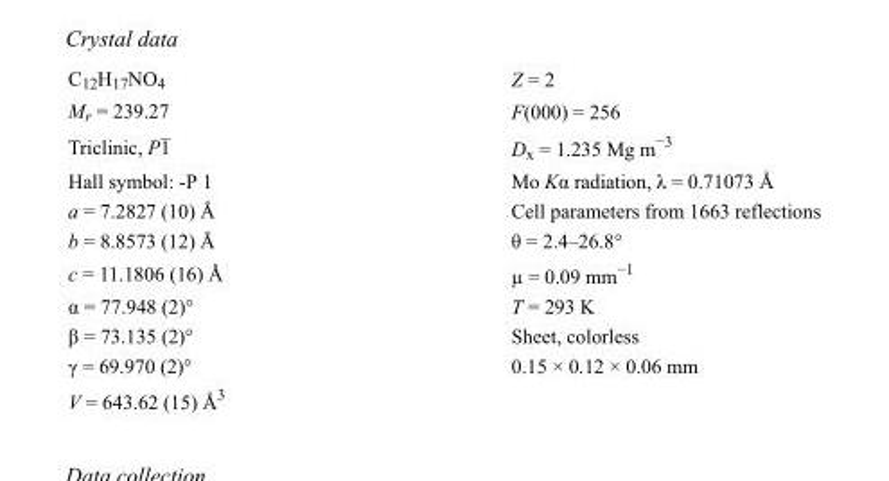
<table><tbody><tr><td>C<sub>12</sub>H<sub>17</sub>NO<sub>4</sub></td><td>Z = 2</td></tr><tr><td>M<sub>r</sub> = 239.27</td><td>F(000) = 256</td></tr><tr><td>Triclinic, P1</td><td>D<sub>x</sub> = 1.235 Mg m<sup>−3</sup></td></tr><tr><td>Hall symbol: -P 1</td><td>Mo Kα radiation, λ = 0.71073 Å</td></tr><tr><td>a = 7.2827 (10) Å</td><td>Cell parameters from 1663 reflections</td></tr><tr><td>b = 8.8573 (12) Å</td><td>θ = 2.4–26.8°</td></tr><tr><td>c = 11.1806 (16) Å</td><td>µ = 0.09 mm<sup>−1</sup></td></tr><tr><td>α = 77.948 (2)°</td><td>T = 293 K</td></tr><tr><td>β = 73.135 (2)°</td><td>Sheet, colorless</td></tr><tr><td>γ = 69.970 (2)°</td><td>0.15 × 0.12 × 0.06 mm</td></tr><tr><td>V = 643.62 (15) Å<sup>3</sup></td><td></td></tr></tbody></table>